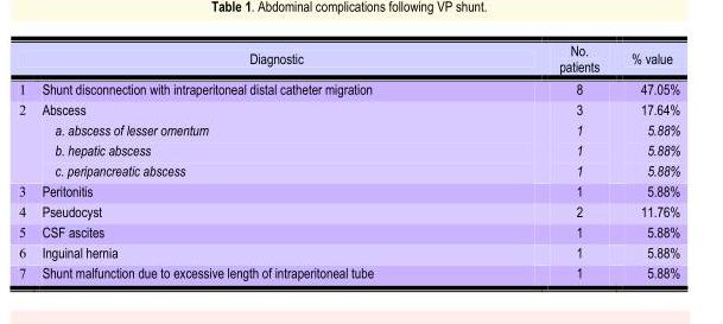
<table><thead><tr><td>Diagnostic</td><td>No. patients</td><td>% value</td></tr></thead><tbody><tr><td>Shunt disconnection with intraperitoneal distal catheter migration</td><td>8</td><td>47.05%</td></tr><tr><td>Abscess</td><td>3</td><td>17.64%</td></tr><tr><td>a. abscess of lesser omentum</td><td>1</td><td>5.88%</td></tr><tr><td>b. hepatic abscess</td><td>1</td><td>5.88%</td></tr><tr><td>c. peripancreatic abscess</td><td>1</td><td>5.88%</td></tr><tr><td>Peritonitis</td><td>1</td><td>5.88%</td></tr><tr><td>Pseudocyst</td><td>2</td><td>11.76%</td></tr><tr><td>CSF ascites</td><td>1</td><td>5.88%</td></tr><tr><td>Inguinal hernia</td><td>1</td><td>5.88%</td></tr><tr><td>Shunt malfunction due to excessive length of intraperitoneal tube</td><td>1</td><td>5.88%</td></tr></tbody></table>